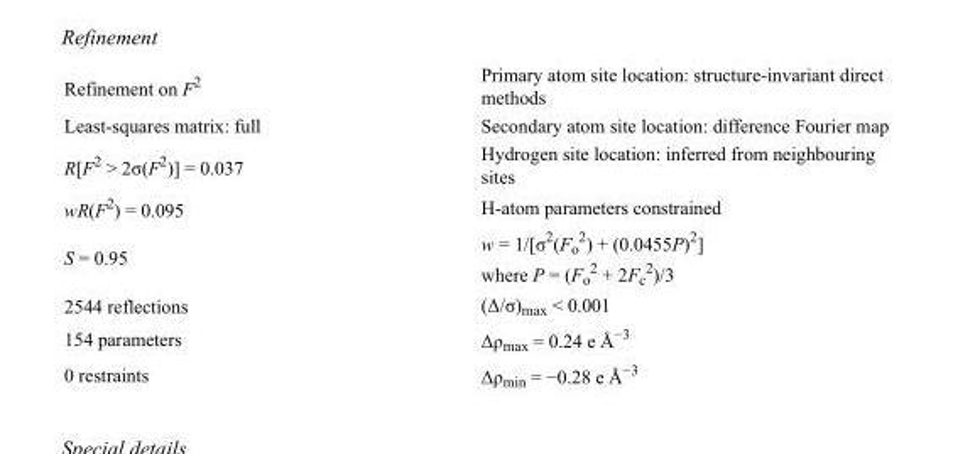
<table><tbody><tr><td>Refinement on F<sup>2</sup></td><td>Primary atom site location: structure-invariant direct methods</td></tr><tr><td>Least-squares matrix: full</td><td>Secondary atom site location: difference Fourier map</td></tr><tr><td>R[F<sup>2</sup> &gt; 2σ(F<sup>2</sup>)] = 0.037</td><td>Hydrogen site location: inferred from neighbouring sites</td></tr><tr><td>wR(F<sup>2</sup>) = 0.095</td><td>H-atom parameters constrained</td></tr><tr><td>S = 0.95</td><td>w = 1/[σ<sup>2</sup>(F<sub>o</sub> <sup>2</sup>) + (0.0455P)<sup>2</sup>] where P = (F<sub>o</sub> <sup>2</sup> + 2F<sub>c</sub> <sup>2</sup>)/3</td></tr><tr><td>2544 reflections</td><td>(Δ/σ)<sub>max</sub> &lt; 0.001</td></tr><tr><td>154 parameters</td><td>Δρ<sub>max</sub> = 0.24 e Å<sup>−3</sup></td></tr><tr><td>0 restraints</td><td>Δρ<sub>min</sub> = −0.28 e Å<sup>−3</sup></td></tr></tbody></table>